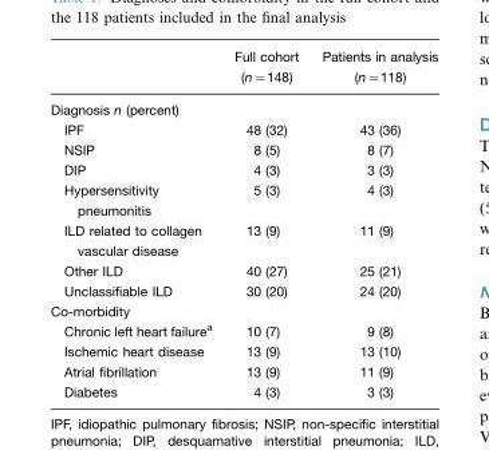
<table><thead><tr><td></td><td>Full cohort (n=148)</td><td>Patients in analysis (n=118)</td></tr></thead><tbody><tr><td colspan="3">Diagnosis n (percent)</td></tr><tr><td>IPF</td><td>48 (32)</td><td>43 (36)</td></tr><tr><td>NSIP</td><td>8 (5)</td><td>8 (7)</td></tr><tr><td>DIP</td><td>4 (3)</td><td>3 (3)</td></tr><tr><td>Hypersensitivity pneumonitis</td><td>5 (3)</td><td>4 (3)</td></tr><tr><td>ILD related to collagen vascular disease</td><td>13 (9)</td><td>11 (9)</td></tr><tr><td>Other ILD</td><td>40 (27)</td><td>25 (21)</td></tr><tr><td>Unclassifiable ILD</td><td>30 (20)</td><td>24 (20)</td></tr><tr><td colspan="3">Co-morbidity</td></tr><tr><td>Chronic left heart failure<sup>a</sup></td><td>10 (7)</td><td>9 (8)</td></tr><tr><td>Ischemic heart disease</td><td>13 (9)</td><td>13 (10)</td></tr><tr><td>Atrial fibrillation</td><td>13 (9)</td><td>11 (9)</td></tr><tr><td>Diabetes</td><td>4 (3)</td><td>3 (3)</td></tr></tbody></table>